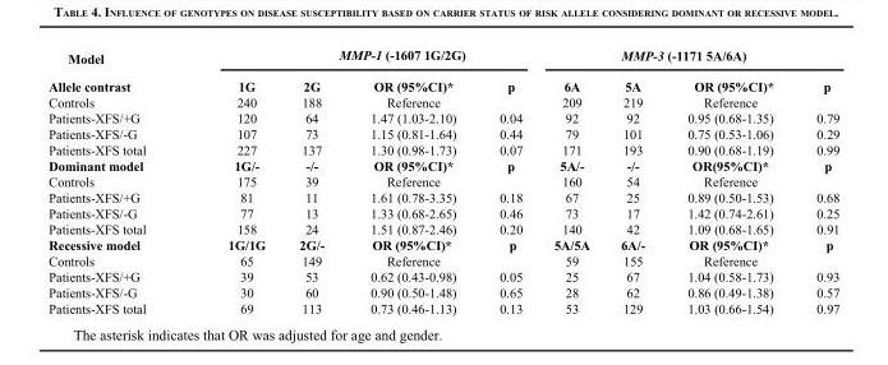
<table><thead><tr><td rowspan="2">Model Allele contrast</td><td colspan="4">MMP-1 (-1607 1G/2G)</td><td colspan="4">MMP-3 (-1171 5A/6A)</td></tr><tr><td>1G</td><td>2G</td><td>OR (95%CI)*</td><td>p</td><td>6A</td><td>5A</td><td>OR (95%CI)*</td><td>p</td></tr></thead><tbody><tr><td>Controls</td><td>240</td><td>188</td><td>Reference</td><td></td><td>209</td><td>219</td><td>Reference</td><td></td></tr><tr><td>Patients-XFS/+G</td><td>120</td><td>64</td><td>1.47 (1.03-2.10)</td><td>0.04</td><td>92</td><td>92</td><td>0.95 (0.68-1.35)</td><td>0.79</td></tr><tr><td>Patients-XFS/-G</td><td>107</td><td>73</td><td>1.15 (0.81-1.64)</td><td>0.44</td><td>79</td><td>101</td><td>0.75 (0.53-1.06)</td><td>0.29</td></tr><tr><td>Patients-XFS total</td><td>227</td><td>137</td><td>1.30 (0.98-1.73)</td><td>0.07</td><td>171</td><td>193</td><td>0.90 (0.68-1.19)</td><td>0.99</td></tr><tr><td>Dominant model</td><td>1G/-</td><td>-/-</td><td>OR (95%CI)*</td><td>p</td><td>5A/-</td><td>-/-</td><td>OR(95%CI)*</td><td>p</td></tr><tr><td>Controls</td><td>175</td><td>39</td><td>Reference</td><td></td><td>160</td><td>54</td><td>Reference</td><td></td></tr><tr><td>Patients-XFS/+G</td><td>81</td><td>11</td><td>1.61 (0.78-3.35)</td><td>0.18</td><td>67</td><td>25</td><td>0.89 (0.50-1.53)</td><td>0.68</td></tr><tr><td>Patients-XFS/-G</td><td>77</td><td>13</td><td>1.33 (0.68-2.65)</td><td>0.46</td><td>73</td><td>17</td><td>1.42 (0.74-2.61)</td><td>0.25</td></tr><tr><td>Patients-XFS total</td><td>158</td><td>24</td><td>1.51 (0.87-2.46)</td><td>0.20</td><td>140</td><td>42</td><td>1.09 (0.68-1.65)</td><td>0.91</td></tr><tr><td>Recessive model</td><td>1G/1G</td><td>2G/-</td><td>OR (95%CI)*</td><td>p</td><td>5A/5A</td><td>6A/-</td><td>OR (95%CI)*</td><td>p</td></tr><tr><td>Controls</td><td>65</td><td>149</td><td>Reference</td><td></td><td>59</td><td>155</td><td>Reference</td><td></td></tr><tr><td>Patients-XFS/+G</td><td>39</td><td>53</td><td>0.62 (0.43-0.98)</td><td>0.05</td><td>25</td><td>67</td><td>1.04 (0.58-1.73)</td><td>0.93</td></tr><tr><td>Patients-XFS/-G</td><td>30</td><td>60</td><td>0.90 (0.50-1.48)</td><td>0.65</td><td>28</td><td>62</td><td>0.86 (0.49-1.38)</td><td>0.57</td></tr><tr><td>Patients-XFS total</td><td>69</td><td>113</td><td>0.73 (0.46-1.13)</td><td>0.13</td><td>53</td><td>129</td><td>1.03 (0.66-1.54)</td><td>0.97</td></tr></tbody></table>